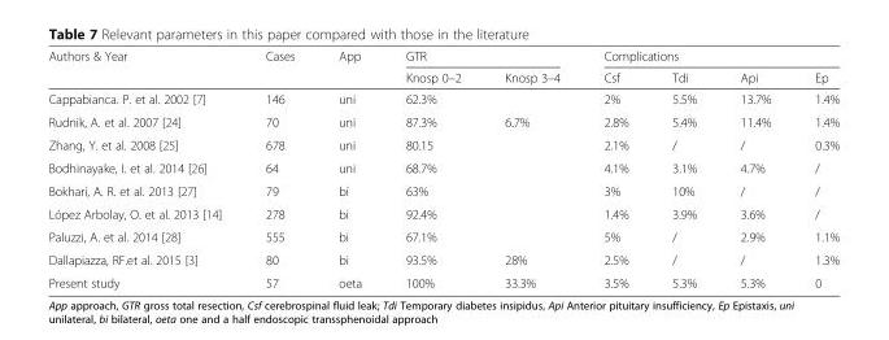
<table><thead><tr><td rowspan="2">Authors &amp; Year</td><td rowspan="2">Cases</td><td rowspan="2">App</td><td colspan="2">GTR</td><td colspan="4">Complications</td></tr><tr><td>Knosp 0–2</td><td>Knosp 3–4</td><td>Csf</td><td>Tdi</td><td>Api</td><td>Ep</td></tr></thead><tbody><tr><td>Cappabianca. P. et al. 2002 [7]</td><td>146</td><td>uni</td><td colspan="2">62.3%</td><td>2%</td><td>5.5%</td><td>13.7%</td><td>1.4%</td></tr><tr><td>Rudnik, A. et al. 2007 [24]</td><td>70</td><td>uni</td><td>87.3%</td><td>6.7%</td><td>2.8%</td><td>5.4%</td><td>11.4%</td><td>1.4%</td></tr><tr><td>Zhang, Y. et al. 2008 [25]</td><td>678</td><td>uni</td><td colspan="2">80.15</td><td>2.1%</td><td>/</td><td>/</td><td>0.3%</td></tr><tr><td>Bodhinayake, I. et al. 2014 [26]</td><td>64</td><td>uni</td><td colspan="2">68.7%</td><td>4.1%</td><td>3.1%</td><td>4.7%</td><td>/</td></tr><tr><td>Bokhari, A. R. et al. 2013 [27]</td><td>79</td><td>bi</td><td colspan="2">63%</td><td>3%</td><td>10%</td><td>/</td><td>/</td></tr><tr><td>López Arbolay, O. et al. 2013 [14]</td><td>278</td><td>bi</td><td colspan="2">92.4%</td><td>1.4%</td><td>3.9%</td><td>3.6%</td><td>/</td></tr><tr><td>Paluzzi, A. et al. 2014 [28]</td><td>555</td><td>bi</td><td colspan="2">67.1%</td><td>5%</td><td>/</td><td>2.9%</td><td>1.1%</td></tr><tr><td>Dallapiazza, RF.et al. 2015 [3]</td><td>80</td><td>bi</td><td>93.5%</td><td>28%</td><td>2.5%</td><td>/</td><td>/</td><td>1.3%</td></tr><tr><td>Present study</td><td>57</td><td>oeta</td><td>100%</td><td>33.3%</td><td>3.5%</td><td>5.3%</td><td>5.3%</td><td>0</td></tr></tbody></table>